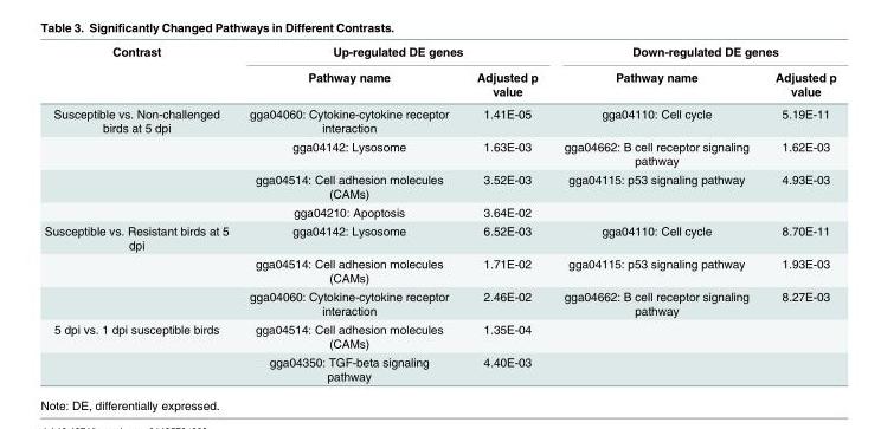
<table><thead><tr><td rowspan="2">Contrast</td><td colspan="2">Up-regulated DE genes</td><td colspan="2">Down-regulated DE genes</td></tr><tr><td>Pathway name</td><td>Adjusted p value</td><td>Pathway name</td><td>Adjusted p value</td></tr></thead><tbody><tr><td rowspan="4">Susceptible vs. Non-challenged birds at 5 dpi</td><td>gga04060: Cytokine-cytokine receptor interaction</td><td>1.41E-05</td><td>gga04110: Cell cycle</td><td>5.19E-11</td></tr><tr><td>gga04142: Lysosome</td><td>1.63E-03</td><td>gga04662: B cell receptor signaling pathway</td><td>1.62E-03</td></tr><tr><td>gga04514: Cell adhesion molecules (CAMs)</td><td>3.52E-03</td><td>gga04115: p53 signaling pathway</td><td>4.93E-03</td></tr><tr><td>gga04210: Apoptosis</td><td>3.64E-02</td><td></td><td></td></tr><tr><td rowspan="3">Susceptible vs. Resistant birds at 5 dpi</td><td>gga04142: Lysosome</td><td>6.52E-03</td><td>gga04110: Cell cycle</td><td>8.70E-11</td></tr><tr><td>gga04514: Cell adhesion molecules (CAMs)</td><td>1.71E-02</td><td>gga04115: p53 signaling pathway</td><td>1.93E-03</td></tr><tr><td>gga04060: Cytokine-cytokine receptor interaction</td><td>2.46E-02</td><td>gga04662: B cell receptor signaling pathway</td><td>8.27E-03</td></tr><tr><td rowspan="2">5 dpi vs. 1 dpi susceptible birds</td><td>gga04514: Cell adhesion molecules (CAMs)</td><td>1.35E-04</td><td></td><td></td></tr><tr><td>gga04350: TGF-beta signaling pathway</td><td>4.40E-03</td><td></td><td></td></tr></tbody></table>